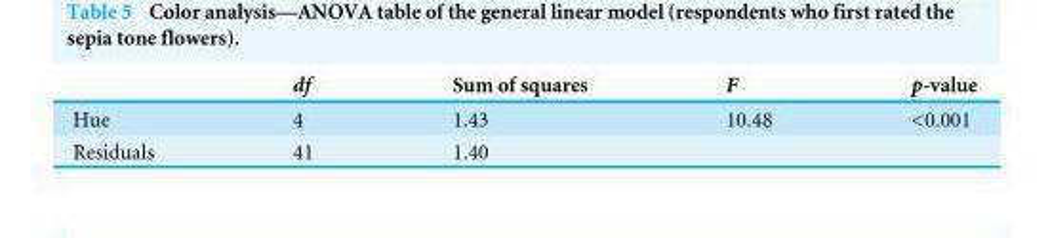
<table><thead><tr><td></td><td>df</td><td>Sum of squares</td><td>F</td><td>p-value</td></tr></thead><tbody><tr><td>Hue</td><td>4</td><td>1.43</td><td>10.48</td><td>&lt;0.001</td></tr><tr><td>Residuals</td><td>41</td><td>1.40</td><td></td><td></td></tr></tbody></table>